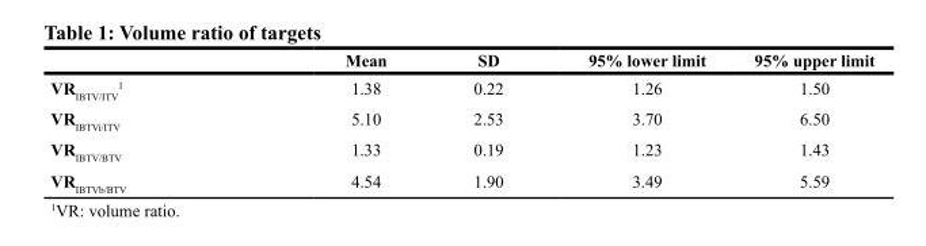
<table><thead><tr><td></td><td>Mean</td><td>SD</td><td>95% lower limit</td><td>95% upper limit</td></tr></thead><tbody><tr><td>VR<sub>IBTV/ITV</sub> <sup>1</sup></td><td>1.38</td><td>0.22</td><td>1.26</td><td>1.50</td></tr><tr><td>VR<sub>IBTVi/ITV</sub></td><td>5.10</td><td>2.53</td><td>3.70</td><td>6.50</td></tr><tr><td>VR<sub>IBTV/BTV</sub></td><td>1.33</td><td>0.19</td><td>1.23</td><td>1.43</td></tr><tr><td>VR<sub>IBTVb/BTV</sub></td><td>4.54</td><td>1.90</td><td>3.49</td><td>5.59</td></tr></tbody></table>